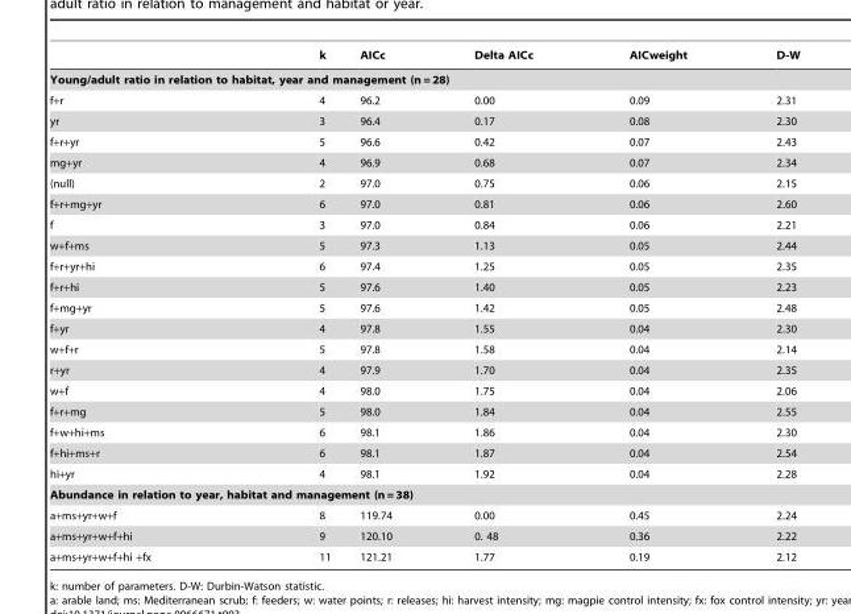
<table><thead><tr><td></td><td>k</td><td>AICc</td><td>Delta AICc</td><td>AICweight</td><td>D-W</td></tr></thead><tbody><tr><td colspan="6">Young/adult ratio in relation to habitat, year and management (n = 28)</td></tr><tr><td>f+r</td><td>4</td><td>96.2</td><td>0.00</td><td>0.09</td><td>2.31</td></tr><tr><td>yr</td><td>3</td><td>96.4</td><td>0.17</td><td>0.08</td><td>2.30</td></tr><tr><td>f+r+yr</td><td>5</td><td>96.6</td><td>0.42</td><td>0.07</td><td>2.43</td></tr><tr><td>mg+yr</td><td>4</td><td>96.9</td><td>0.68</td><td>0.07</td><td>2.34</td></tr><tr><td>(null)</td><td>2</td><td>97.0</td><td>0.75</td><td>0.06</td><td>2.15</td></tr><tr><td>f+r+mg+yr</td><td>6</td><td>97.0</td><td>0.81</td><td>0.06</td><td>2.60</td></tr><tr><td>f</td><td>3</td><td>97.0</td><td>0.84</td><td>0.06</td><td>2.21</td></tr><tr><td>w+f+ms</td><td>5</td><td>97.3</td><td>1.13</td><td>0.05</td><td>2.44</td></tr><tr><td>f+r+yr+hi</td><td>6</td><td>97.4</td><td>1.25</td><td>0.05</td><td>2.35</td></tr><tr><td>f+r+hi</td><td>5</td><td>97.6</td><td>1.40</td><td>0.05</td><td>2.23</td></tr><tr><td>f+mg+yr</td><td>5</td><td>97.6</td><td>1.42</td><td>0.05</td><td>2.48</td></tr><tr><td>f+yr</td><td>4</td><td>97.8</td><td>1.55</td><td>0.04</td><td>2.30</td></tr><tr><td>w+f+r</td><td>5</td><td>97.8</td><td>1.58</td><td>0.04</td><td>2.14</td></tr><tr><td>r+yr</td><td>4</td><td>97.9</td><td>1.70</td><td>0.04</td><td>2.35</td></tr><tr><td>w+f</td><td>4</td><td>98.0</td><td>1.75</td><td>0.04</td><td>2.06</td></tr><tr><td>f+r+mg</td><td>5</td><td>98.0</td><td>1.84</td><td>0.04</td><td>2.55</td></tr><tr><td>f+w+hi+ms</td><td>6</td><td>98.1</td><td>1.86</td><td>0.04</td><td>2.30</td></tr><tr><td>f+hi+ms+r</td><td>6</td><td>98.1</td><td>1.87</td><td>0.04</td><td>2.54</td></tr><tr><td>hi+yr</td><td>4</td><td>98.1</td><td>1.92</td><td>0.04</td><td>2.28</td></tr><tr><td colspan="6">Abundance in relation to year, habitat and management (n = 38)</td></tr><tr><td>a+ms+yr+w+f</td><td>8</td><td>119.74</td><td>0.00</td><td>0.45</td><td>2.24</td></tr><tr><td>a+ms+yr+w+f+hi</td><td>9</td><td>120.10</td><td>0. 48</td><td>0.36</td><td>2.22</td></tr><tr><td>a+ms+yr+w+f+hi +fx</td><td>11</td><td>121.21</td><td>1.77</td><td>0.19</td><td>2.12</td></tr></tbody></table>